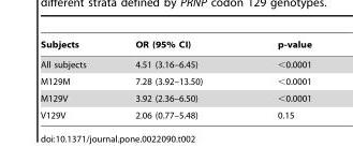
<table><thead><tr><td>Subjects</td><td>OR (95% CI)</td><td>p-value</td></tr></thead><tbody><tr><td>All subjects</td><td>4.51 (3.16–6.45)</td><td>&lt;0.0001</td></tr><tr><td>M129M</td><td>7.28 (3.92–13.50)</td><td>&lt;0.0001</td></tr><tr><td>M129V</td><td>3.92 (2.36–6.50)</td><td>&lt;0.0001</td></tr><tr><td>V129V</td><td>2.06 (0.77–5.48)</td><td>0.15</td></tr></tbody></table>